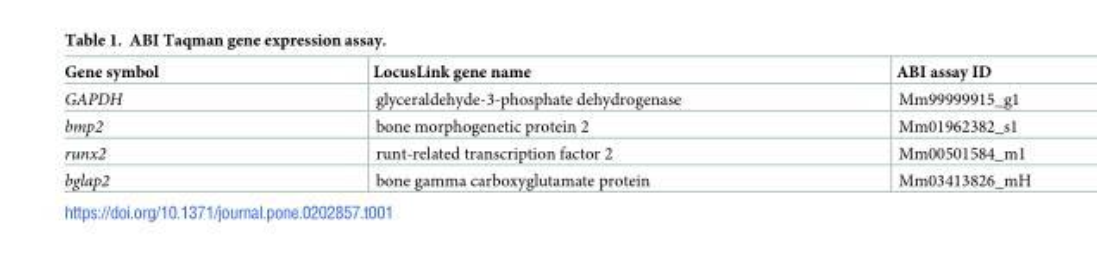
<table><thead><tr><td>Gene symbol</td><td>LocusLink gene name</td><td>ABI assay ID</td></tr></thead><tbody><tr><td>GAPDH</td><td>glyceraldehyde-3-phosphate dehydrogenase</td><td>Mm99999915_g1</td></tr><tr><td>bmp2</td><td>bone morphogenetic protein 2</td><td>Mm01962382_s1</td></tr><tr><td>runx2</td><td>runt-related transcription factor 2</td><td>Mm00501584_m1</td></tr><tr><td>bglap2</td><td>bone gamma carboxyglutamate protein</td><td>Mm03413826_mH</td></tr></tbody></table>